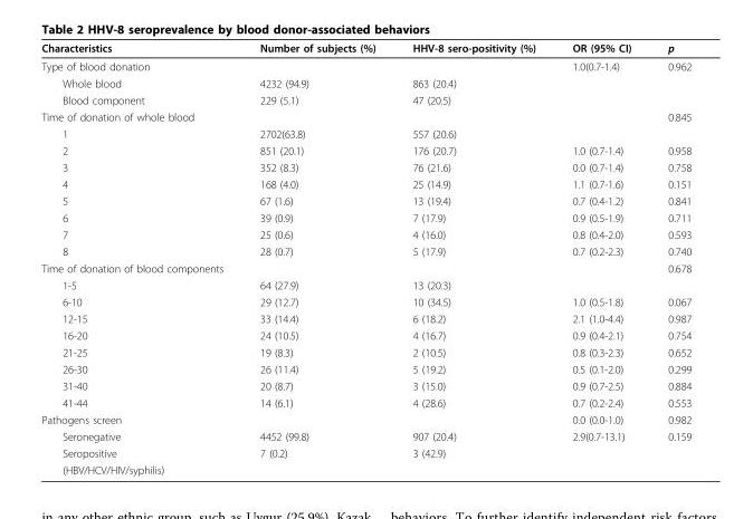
<table><thead><tr><td>Characteristics</td><td>Number of subjects (%)</td><td>HHV-8 sero-positivity (%)</td><td>OR (95% CI)</td><td>p</td></tr></thead><tbody><tr><td>Type of blood donation</td><td></td><td></td><td>1.0(0.7-1.4)</td><td>0.962</td></tr><tr><td>Whole blood</td><td>4232 (94.9)</td><td>863 (20.4)</td><td></td><td></td></tr><tr><td>Blood component</td><td>229 (5.1)</td><td>47 (20.5)</td><td></td><td></td></tr><tr><td>Time of donation of whole blood</td><td></td><td></td><td></td><td>0.845</td></tr><tr><td>1</td><td>2702(63.8)</td><td>557 (20.6)</td><td></td><td></td></tr><tr><td>2</td><td>851 (20.1)</td><td>176 (20.7)</td><td>1.0 (0.7-1.4)</td><td>0.958</td></tr><tr><td>3</td><td>352 (8.3)</td><td>76 (21.6)</td><td>0.0 (0.7-1.4)</td><td>0.758</td></tr><tr><td>4</td><td>168 (4.0)</td><td>25 (14.9)</td><td>1.1 (0.7-1.6)</td><td>0.151</td></tr><tr><td>5</td><td>67 (1.6)</td><td>13 (19.4)</td><td>0.7 (0.4-1.2)</td><td>0.841</td></tr><tr><td>6</td><td>39 (0.9)</td><td>7 (17.9)</td><td>0.9 (0.5-1.9)</td><td>0.711</td></tr><tr><td>7</td><td>25 (0.6)</td><td>4 (16.0)</td><td>0.8 (0.4-2.0)</td><td>0.593</td></tr><tr><td>8</td><td>28 (0.7)</td><td>5 (17.9)</td><td>0.7 (0.2-2.3)</td><td>0.740</td></tr><tr><td>Time of donation of blood components</td><td></td><td></td><td></td><td>0.678</td></tr><tr><td>1-5</td><td>64 (27.9)</td><td>13 (20.3)</td><td></td><td></td></tr><tr><td>6-10</td><td>29 (12.7)</td><td>10 (34.5)</td><td>1.0 (0.5-1.8)</td><td>0.067</td></tr><tr><td>12-15</td><td>33 (14.4)</td><td>6 (18.2)</td><td>2.1 (1.0-4.4)</td><td>0.987</td></tr><tr><td>16-20</td><td>24 (10.5)</td><td>4 (16.7)</td><td>0.9 (0.4-2.1)</td><td>0.754</td></tr><tr><td>21-25</td><td>19 (8.3)</td><td>2 (10.5)</td><td>0.8 (0.3-2.3)</td><td>0.652</td></tr><tr><td>26-30</td><td>26 (11.4)</td><td>5 (19.2)</td><td>0.5 (0.1-2.0)</td><td>0.299</td></tr><tr><td>31-40</td><td>20 (8.7)</td><td>3 (15.0)</td><td>0.9 (0.7-2.5)</td><td>0.884</td></tr><tr><td>41-44</td><td>14 (6.1)</td><td>4 (28.6)</td><td>0.7 (0.2-2.4)</td><td>0.553</td></tr><tr><td>Pathogens screen</td><td></td><td></td><td>0.0 (0.0-1.0)</td><td>0.982</td></tr><tr><td>Seronegative</td><td>4452 (99.8)</td><td>907 (20.4)</td><td>2.9(0.7-13.1)</td><td>0.159</td></tr><tr><td>Seropositive</td><td>7 (0.2)</td><td>3 (42.9)</td><td></td><td></td></tr><tr><td>(HBV/HCV/HIV/syphilis)</td><td></td><td></td><td></td><td></td></tr></tbody></table>